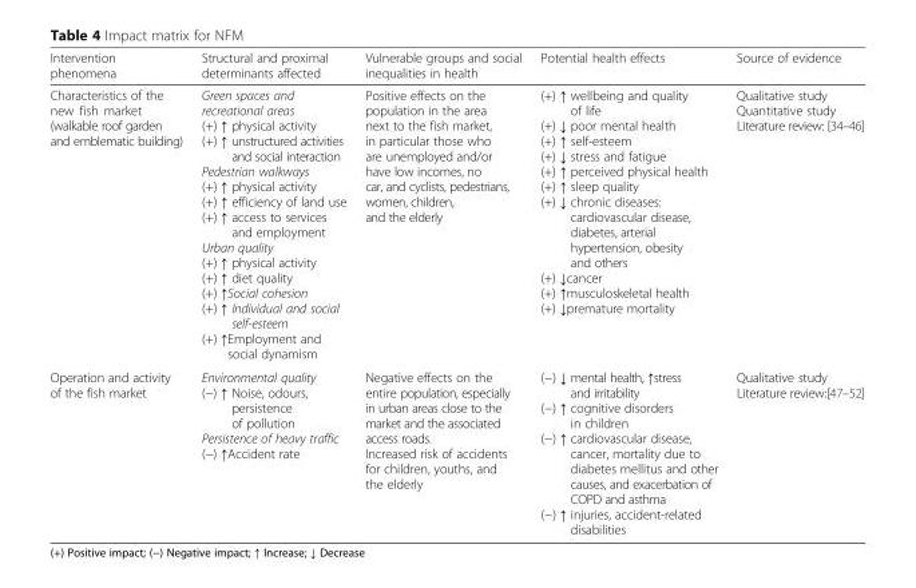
<table><thead><tr><td>Intervention phenomena</td><td>Structural and proximal determinants affected</td><td>Vulnerable groups and social inequalities in health</td><td>Potential health effects</td><td>Source of evidence</td></tr></thead><tbody><tr><td>Characteristics of the new fish market (walkable roof garden and emblematic building)</td><td>Green spaces and recreational areas (+) ↑ physical activity (+) ↑ unstructured activities and social interaction Pedestrian walkways (+) ↑ physical activity (+) ↑ efficiency of land use (+) ↑ access to services and employment Urban quality (+) ↑ physical activity (+) ↑ diet quality (+) ↑Social cohesion (+) ↑ Individual and social self-esteem (+) ↑Employment and social dynamism</td><td>Positive effects on the population in the area next to the fish market, in particular those who are unemployed and/or have low incomes, no car, and cyclists, pedestrians, women, children, and the elderly</td><td>(+) ↑ wellbeing and quality of life (+) ↓ poor mental health (+) ↑ self-esteem (+) ↓ stress and fatigue (+) ↑ perceived physical health (+) ↑ sleep quality (+) ↓ chronic diseases: cardiovascular disease, diabetes, arterial hypertension, obesity and others (+) ↓cancer (+) ↑musculoskeletal health (+) ↓premature mortality</td><td>Qualitative study Quantitative study Literature review: [34–46]</td></tr><tr><td>Operation and activity of the fish market</td><td>Environmental quality (−) ↑ Noise, odours, persistence of pollution Persistence of heavy traffic (−) ↑Accident rate</td><td>Negative effects on the entire population, especially in urban areas close to the market and the associated access roads. Increased risk of accidents for children, youths, and the elderly</td><td>(−) ↓ mental health, ↑stress and irritability (−) ↑ cognitive disorders in children (−) ↑ cardiovascular disease, cancer, mortality due to diabetes mellitus and other causes, and exacerbation of COPD and asthma (−) ↑ injuries, accident-related disabilities</td><td>Qualitative study Literature review:[47–52]</td></tr></tbody></table>